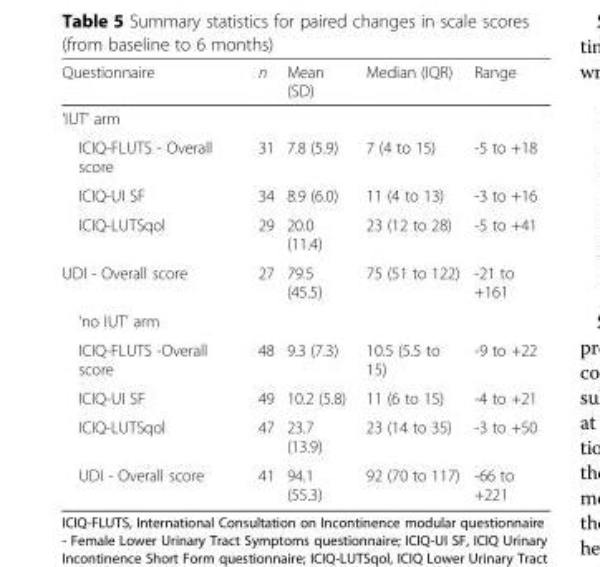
<table><thead><tr><td>Questionnaire</td><td>n</td><td>Mean (SD)</td><td>Median (IQR)</td><td>Range</td></tr></thead><tbody><tr><td colspan="5">‘IUT’ arm</td></tr><tr><td>ICIQ-FLUTS - Overall score</td><td>31</td><td>7.8 (5.9)</td><td>7 (4 to 15)</td><td>-5 to +18</td></tr><tr><td>ICIQ-UI SF</td><td>34</td><td>8.9 (6.0)</td><td>11 (4 to 13)</td><td>-3 to +16</td></tr><tr><td>ICIQ-LUTSqol</td><td>29</td><td>20.0 (11.4)</td><td>23 (12 to 28)</td><td>-5 to +41</td></tr><tr><td>UDI - Overall score</td><td>27</td><td>79.5 (45.5)</td><td>75 (51 to 122)</td><td>-21 to +161</td></tr><tr><td colspan="5">‘no IUT’ arm</td></tr><tr><td>ICIQ-FLUTS -Overall score</td><td>48</td><td>9.3 (7.3)</td><td>10.5 (5.5 to 15)</td><td>-9 to +22</td></tr><tr><td>ICIQ-UI SF</td><td>49</td><td>10.2 (5.8)</td><td>11 (6 to 15)</td><td>-4 to +21</td></tr><tr><td>ICIQ-LUTSqol</td><td>47</td><td>23.7 (13.9)</td><td>23 (14 to 35)</td><td>-3 to +50</td></tr><tr><td>UDI - Overall score</td><td>41</td><td>94.1 (55.3)</td><td>92 (70 to 117)</td><td>-66 to +221</td></tr></tbody></table>